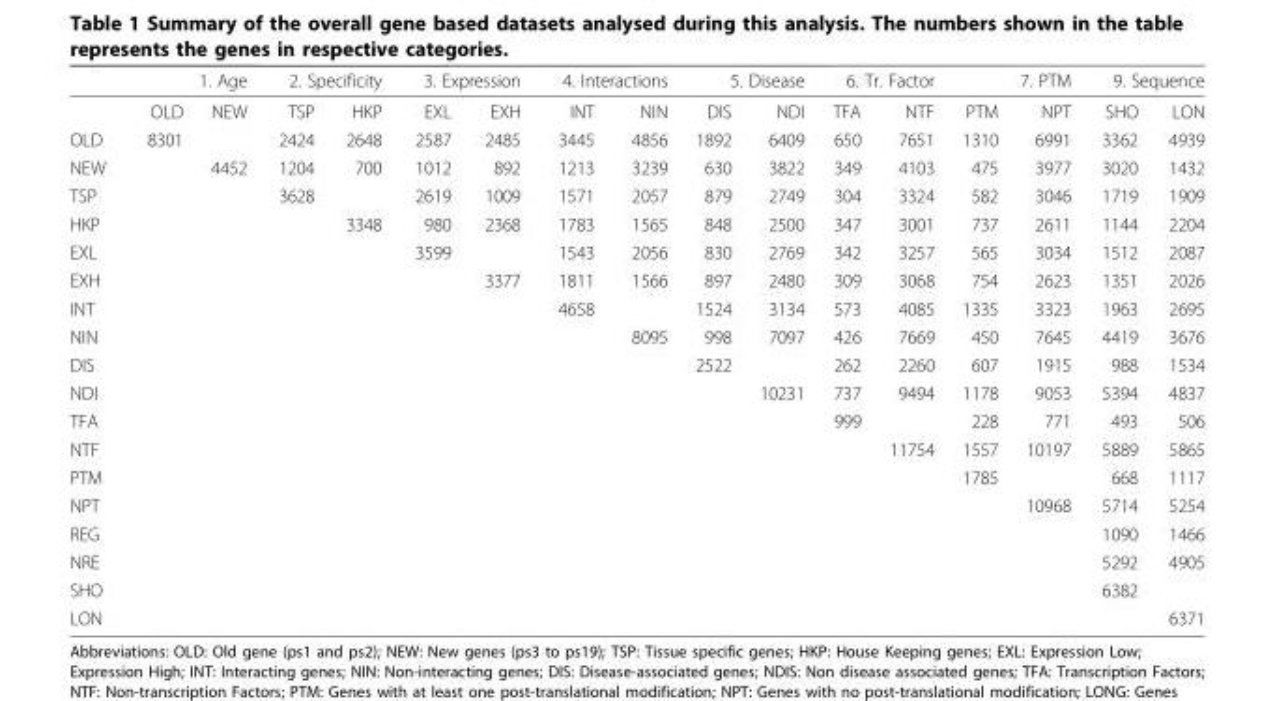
<table><thead><tr><td rowspan="2"></td><td colspan="2">1. Age</td><td colspan="2">2. Specificity</td><td colspan="2">3. Expression</td><td colspan="2">4. Interactions</td><td colspan="2">5. Disease</td><td colspan="2">6. Tr. Factor</td><td colspan="2">7. PTM</td><td colspan="2">9. Sequence</td></tr><tr><td>OLD</td><td>NEW</td><td>TSP</td><td>HKP</td><td>EXL</td><td>EXH</td><td>INT</td><td>NIN</td><td>DIS</td><td>NDI</td><td>TFA</td><td>NTF</td><td>PTM</td><td>NPT</td><td>SHO</td><td>LON</td></tr></thead><tbody><tr><td>OLD</td><td>8301</td><td></td><td>2424</td><td>2648</td><td>2587</td><td>2485</td><td>3445</td><td>4856</td><td>1892</td><td>6409</td><td>650</td><td>7651</td><td>1310</td><td>6991</td><td>3362</td><td>4939</td></tr><tr><td>NEW</td><td></td><td>4452</td><td>1204</td><td>700</td><td>1012</td><td>892</td><td>1213</td><td>3239</td><td>630</td><td>3822</td><td>349</td><td>4103</td><td>475</td><td>3977</td><td>3020</td><td>1432</td></tr><tr><td>TSP</td><td></td><td></td><td>3628</td><td></td><td>2619</td><td>1009</td><td>1571</td><td>2057</td><td>879</td><td>2749</td><td>304</td><td>3324</td><td>582</td><td>3046</td><td>1719</td><td>1909</td></tr><tr><td>HKP</td><td></td><td></td><td></td><td>3348</td><td>980</td><td>2368</td><td>1783</td><td>1565</td><td>848</td><td>2500</td><td>347</td><td>3001</td><td>737</td><td>2611</td><td>1144</td><td>2204</td></tr><tr><td>EXL</td><td></td><td></td><td></td><td></td><td>3599</td><td></td><td>1543</td><td>2056</td><td>830</td><td>2769</td><td>342</td><td>3257</td><td>565</td><td>3034</td><td>1512</td><td>2087</td></tr><tr><td>EXH</td><td></td><td></td><td></td><td></td><td></td><td>3377</td><td>1811</td><td>1566</td><td>897</td><td>2480</td><td>309</td><td>3068</td><td>754</td><td>2623</td><td>1351</td><td>2026</td></tr><tr><td>INT</td><td></td><td></td><td></td><td></td><td></td><td></td><td>4658</td><td></td><td>1524</td><td>3134</td><td>573</td><td>4085</td><td>1335</td><td>3323</td><td>1963</td><td>2695</td></tr><tr><td>NIN</td><td></td><td></td><td></td><td></td><td></td><td></td><td></td><td>8095</td><td>998</td><td>7097</td><td>426</td><td>7669</td><td>450</td><td>7645</td><td>4419</td><td>3676</td></tr><tr><td>DIS</td><td></td><td></td><td></td><td></td><td></td><td></td><td></td><td></td><td>2522</td><td></td><td>262</td><td>2260</td><td>607</td><td>1915</td><td>988</td><td>1534</td></tr><tr><td>NDI</td><td></td><td></td><td></td><td></td><td></td><td></td><td></td><td></td><td></td><td>10231</td><td>737</td><td>9494</td><td>1178</td><td>9053</td><td>5394</td><td>4837</td></tr><tr><td>TFA</td><td></td><td></td><td></td><td></td><td></td><td></td><td></td><td></td><td></td><td></td><td>999</td><td></td><td>228</td><td>771</td><td>493</td><td>506</td></tr><tr><td>NTF</td><td></td><td></td><td></td><td></td><td></td><td></td><td></td><td></td><td></td><td></td><td></td><td>11754</td><td>1557</td><td>10197</td><td>5889</td><td>5865</td></tr><tr><td>PTM</td><td></td><td></td><td></td><td></td><td></td><td></td><td></td><td></td><td></td><td></td><td></td><td></td><td>1785</td><td></td><td>668</td><td>1117</td></tr><tr><td>NPT</td><td></td><td></td><td></td><td></td><td></td><td></td><td></td><td></td><td></td><td></td><td></td><td></td><td></td><td>10968</td><td>5714</td><td>5254</td></tr><tr><td>REG</td><td></td><td></td><td></td><td></td><td></td><td></td><td></td><td></td><td></td><td></td><td></td><td></td><td></td><td></td><td>1090</td><td>1466</td></tr><tr><td>NRE</td><td></td><td></td><td></td><td></td><td></td><td></td><td></td><td></td><td></td><td></td><td></td><td></td><td></td><td></td><td>5292</td><td>4905</td></tr><tr><td>SHO</td><td></td><td></td><td></td><td></td><td></td><td></td><td></td><td></td><td></td><td></td><td></td><td></td><td></td><td></td><td>6382</td><td></td></tr><tr><td>LON</td><td></td><td></td><td></td><td></td><td></td><td></td><td></td><td></td><td></td><td></td><td></td><td></td><td></td><td></td><td></td><td>6371</td></tr></tbody></table>